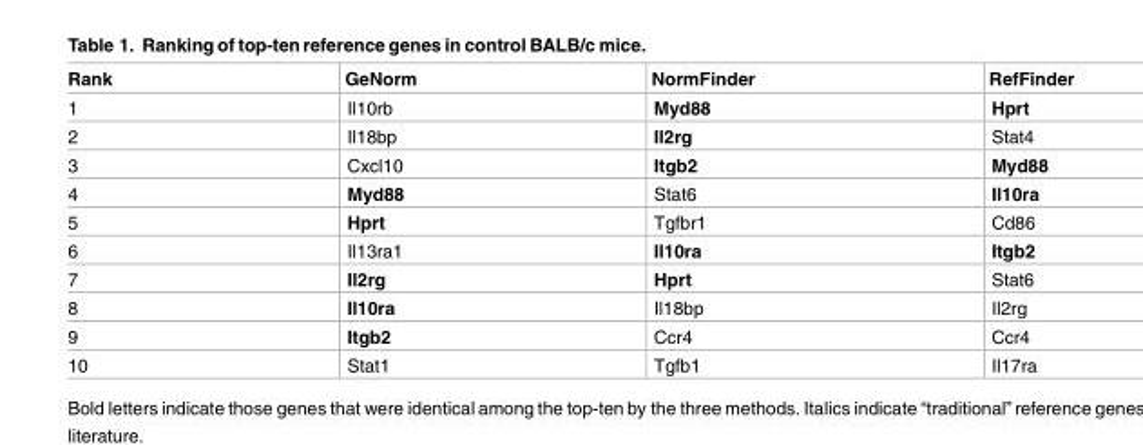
<table><thead><tr><td>Rank</td><td>GeNorm</td><td>NormFinder</td><td>RefFinder</td></tr></thead><tbody><tr><td>1</td><td>Il10rb</td><td>Myd88</td><td>Hprt</td></tr><tr><td>2</td><td>Il18bp</td><td>Il2rg</td><td>Stat4</td></tr><tr><td>3</td><td>Cxcl10</td><td>Itgb2</td><td>Myd88</td></tr><tr><td>4</td><td>Myd88</td><td>Stat6</td><td>Il10ra</td></tr><tr><td>5</td><td>Hprt</td><td>Tgfbr1</td><td>Cd86</td></tr><tr><td>6</td><td>Il13ra1</td><td>Il10ra</td><td>Itgb2</td></tr><tr><td>7</td><td>Il2rg</td><td>Hprt</td><td>Stat6</td></tr><tr><td>8</td><td>Il10ra</td><td>Il18bp</td><td>Il2rg</td></tr><tr><td>9</td><td>Itgb2</td><td>Ccr4</td><td>Ccr4</td></tr><tr><td>10</td><td>Stat1</td><td>Tgfb1</td><td>Il17ra</td></tr></tbody></table>